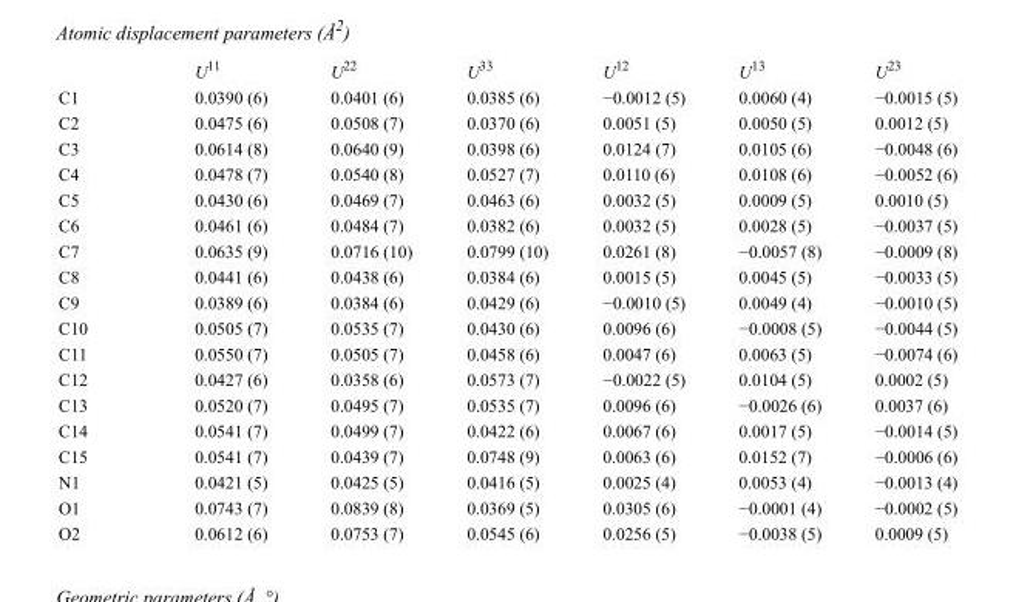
<table><thead><tr><td></td><td>U<sup>11</sup></td><td>U<sup>22</sup></td><td>U<sup>33</sup></td><td>U<sup>12</sup></td><td>U<sup>13</sup></td><td>U<sup>23</sup></td></tr></thead><tbody><tr><td>C1</td><td>0.0390 (6)</td><td>0.0401 (6)</td><td>0.0385 (6)</td><td>−0.0012 (5)</td><td>0.0060 (4)</td><td>−0.0015 (5)</td></tr><tr><td>C2</td><td>0.0475 (6)</td><td>0.0508 (7)</td><td>0.0370 (6)</td><td>0.0051 (5)</td><td>0.0050 (5)</td><td>0.0012 (5)</td></tr><tr><td>C3</td><td>0.0614 (8)</td><td>0.0640 (9)</td><td>0.0398 (6)</td><td>0.0124 (7)</td><td>0.0105 (6)</td><td>−0.0048 (6)</td></tr><tr><td>C4</td><td>0.0478 (7)</td><td>0.0540 (8)</td><td>0.0527 (7)</td><td>0.0110 (6)</td><td>0.0108 (6)</td><td>−0.0052 (6)</td></tr><tr><td>C5</td><td>0.0430 (6)</td><td>0.0469 (7)</td><td>0.0463 (6)</td><td>0.0032 (5)</td><td>0.0009 (5)</td><td>0.0010 (5)</td></tr><tr><td>C6</td><td>0.0461 (6)</td><td>0.0484 (7)</td><td>0.0382 (6)</td><td>0.0032 (5)</td><td>0.0028 (5)</td><td>−0.0037 (5)</td></tr><tr><td>C7</td><td>0.0635 (9)</td><td>0.0716 (10)</td><td>0.0799 (10)</td><td>0.0261 (8)</td><td>−0.0057 (8)</td><td>−0.0009 (8)</td></tr><tr><td>C8</td><td>0.0441 (6)</td><td>0.0438 (6)</td><td>0.0384 (6)</td><td>0.0015 (5)</td><td>0.0045 (5)</td><td>−0.0033 (5)</td></tr><tr><td>C9</td><td>0.0389 (6)</td><td>0.0384 (6)</td><td>0.0429 (6)</td><td>−0.0010 (5)</td><td>0.0049 (4)</td><td>−0.0010 (5)</td></tr><tr><td>C10</td><td>0.0505 (7)</td><td>0.0535 (7)</td><td>0.0430 (6)</td><td>0.0096 (6)</td><td>−0.0008 (5)</td><td>−0.0044 (5)</td></tr><tr><td>C11</td><td>0.0550 (7)</td><td>0.0505 (7)</td><td>0.0458 (6)</td><td>0.0047 (6)</td><td>0.0063 (5)</td><td>−0.0074 (6)</td></tr><tr><td>C12</td><td>0.0427 (6)</td><td>0.0358 (6)</td><td>0.0573 (7)</td><td>−0.0022 (5)</td><td>0.0104 (5)</td><td>0.0002 (5)</td></tr><tr><td>C13</td><td>0.0520 (7)</td><td>0.0495 (7)</td><td>0.0535 (7)</td><td>0.0096 (6)</td><td>−0.0026 (6)</td><td>0.0037 (6)</td></tr><tr><td>C14</td><td>0.0541 (7)</td><td>0.0499 (7)</td><td>0.0422 (6)</td><td>0.0067 (6)</td><td>0.0017 (5)</td><td>−0.0014 (5)</td></tr><tr><td>C15</td><td>0.0541 (7)</td><td>0.0439 (7)</td><td>0.0748 (9)</td><td>0.0063 (6)</td><td>0.0152 (7)</td><td>−0.0006 (6)</td></tr><tr><td>N1</td><td>0.0421 (5)</td><td>0.0425 (5)</td><td>0.0416 (5)</td><td>0.0025 (4)</td><td>0.0053 (4)</td><td>−0.0013 (4)</td></tr><tr><td>O1</td><td>0.0743 (7)</td><td>0.0839 (8)</td><td>0.0369 (5)</td><td>0.0305 (6)</td><td>−0.0001 (4)</td><td>−0.0002 (5)</td></tr><tr><td>O2</td><td>0.0612 (6)</td><td>0.0753 (7)</td><td>0.0545 (6)</td><td>0.0256 (5)</td><td>−0.0038 (5)</td><td>0.0009 (5)</td></tr></tbody></table>